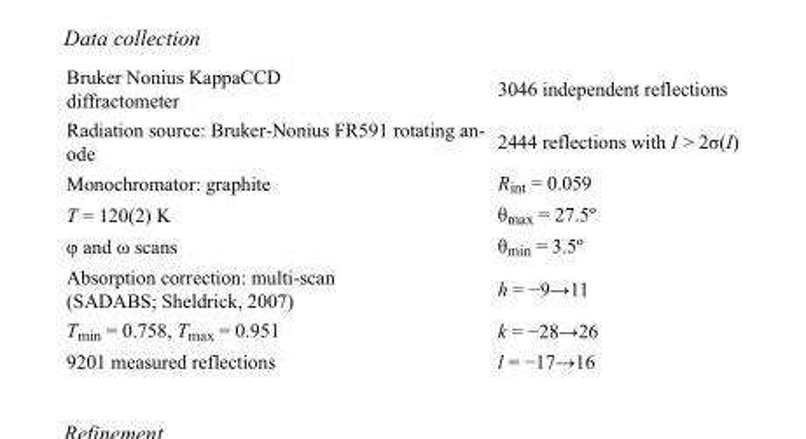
<table><tbody><tr><td>Bruker Nonius KappaCCD diffractometer</td><td>3046 independent reflections</td></tr><tr><td>Radiation source: Bruker-Nonius FR591 rotating an- ode</td><td>2444 reflections with I &gt; 2σ(I)</td></tr><tr><td>Monochromator: graphite</td><td>R<sub>int</sub> = 0.059</td></tr><tr><td>T = 120(2) K</td><td>θ<sub>max</sub> = 27.5º</td></tr><tr><td>φ and ω scans</td><td>θ<sub>min</sub> = 3.5º</td></tr><tr><td>Absorption correction: multi-scan (SADABS; Sheldrick, 2007)</td><td>h = −9→11</td></tr><tr><td>T<sub>min</sub> = 0.758, T<sub>max</sub> = 0.951</td><td>k = −28→26</td></tr><tr><td>9201 measured reflections</td><td>l = −17→16</td></tr></tbody></table>